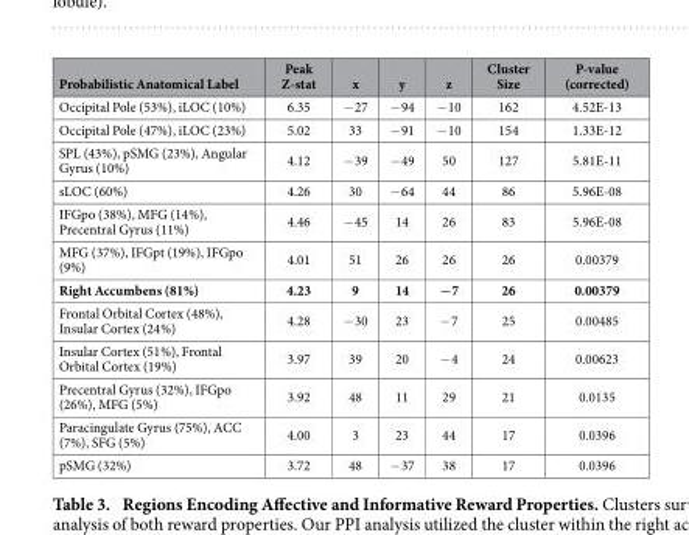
<table><thead><tr><td>Probabilistic Anatomical Label</td><td>Peak Z-stat</td><td>x</td><td>y</td><td>z</td><td>Cluster Size</td><td>P-value (corrected)</td></tr></thead><tbody><tr><td>Occipital Pole (53%), iLOC (10%)</td><td>6.35</td><td>− 27</td><td>− 94</td><td>− 10</td><td>162</td><td>4.52E-13</td></tr><tr><td>Occipital Pole (47%), iLOC (23%)</td><td>5.02</td><td>33</td><td>− 91</td><td>− 10</td><td>154</td><td>1.33E-12</td></tr><tr><td>SPL (43%), pSMG (23%), Angular Gyrus (10%)</td><td>4.12</td><td>− 39</td><td>− 49</td><td>50</td><td>127</td><td>5.81E-11</td></tr><tr><td>sLOC (60%)</td><td>4.26</td><td>30</td><td>− 64</td><td>44</td><td>86</td><td>5.96E-08</td></tr><tr><td>IFGpo (38%), MFG (14%), Precentral Gyrus (11%)</td><td>4.46</td><td>− 45</td><td>14</td><td>26</td><td>83</td><td>5.96E-08</td></tr><tr><td>MFG (37%), IFGpt (19%), IFGpo (9%)</td><td>4.01</td><td>51</td><td>26</td><td>26</td><td>26</td><td>0.00379</td></tr><tr><td>Right Accumbens (81%)</td><td>4.23</td><td>9</td><td>14</td><td>−7</td><td>26</td><td>0.00379</td></tr><tr><td>Frontal Orbital Cortex (48%), Insular Cortex (24%)</td><td>4.28</td><td>− 30</td><td>23</td><td>− 7</td><td>25</td><td>0.00485</td></tr><tr><td>Insular Cortex (51%), Frontal Orbital Cortex (19%)</td><td>3.97</td><td>39</td><td>20</td><td>− 4</td><td>24</td><td>0.00623</td></tr><tr><td>Precentral Gyrus (32%), IFGpo (26%), MFG (5%)</td><td>3.92</td><td>48</td><td>11</td><td>29</td><td>21</td><td>0.0135</td></tr><tr><td>Paracingulate Gyrus (75%), ACC (7%), SFG (5%)</td><td>4.00</td><td>3</td><td>23</td><td>44</td><td>17</td><td>0.0396</td></tr><tr><td>pSMG (32%)</td><td>3.72</td><td>48</td><td>− 37</td><td>38</td><td>17</td><td>0.0396</td></tr></tbody></table>